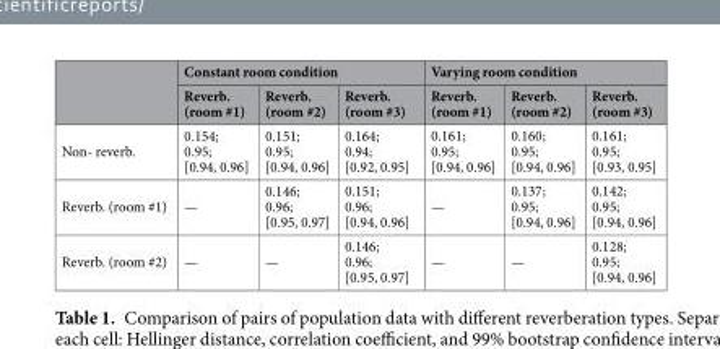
<table><thead><tr><td rowspan="2"></td><td colspan="3">Constant room condition</td><td colspan="3">Varying room condition</td></tr><tr><td>Reverb. (room #1)</td><td>Reverb. (room #2)</td><td>Reverb. (room #3)</td><td>Reverb. (room #1)</td><td>Reverb. (room #2)</td><td>Reverb. (room #3)</td></tr></thead><tbody><tr><td>Non- reverb.</td><td>0.154; 0.95; [0.94, 0.96]</td><td>0.151; 0.95; [0.94, 0.96]</td><td>0.164; 0.94; [0.92, 0.95]</td><td>0.161; 0.95; [0.94, 0.96]</td><td>0.160; 0.95; [0.94, 0.96]</td><td>0.161; 0.95; [0.93, 0.95]</td></tr><tr><td>Reverb. (room #1)</td><td>—</td><td>0.146; 0.96; [0.95, 0.97]</td><td>0.151; 0.96; [0.94, 0.96]</td><td>—</td><td>0.137; 0.95; [0.94, 0.96]</td><td>0.142; 0.95; [0.94, 0.96]</td></tr><tr><td>Reverb. (room #2)</td><td>—</td><td>—</td><td>0.146; 0.96; [0.95, 0.97]</td><td>—</td><td>—</td><td>0.128; 0.95; [0.94, 0.96]</td></tr></tbody></table>